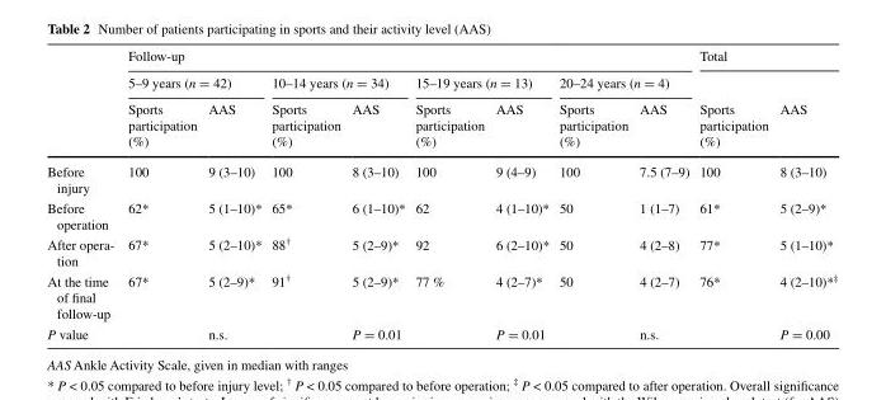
<table><thead><tr><td rowspan="3"></td><td colspan="8">Follow-up</td><td rowspan="2" colspan="2">Total</td></tr><tr><td colspan="2">5–9 years (n = 42)</td><td colspan="2">10–14 years (n = 34)</td><td colspan="2">15–19 years (n = 13)</td><td colspan="2">20–24 years (n = 4)</td></tr><tr><td>Sports participation (%)</td><td>AAS</td><td>Sports participation (%)</td><td>AAS</td><td>Sports participation (%)</td><td>AAS</td><td>Sports participation (%)</td><td>AAS</td><td>Sports participation (%)</td><td>AAS</td></tr></thead><tbody><tr><td>Before injury</td><td>100</td><td>9 (3–10)</td><td>100</td><td>8 (3–10)</td><td>100</td><td>9 (4–9)</td><td>100</td><td>7.5 (7–9)</td><td>100</td><td>8 (3–10)</td></tr><tr><td>Before operation</td><td>62*</td><td>5 (1–10)*</td><td>65*</td><td>6 (1–10)*</td><td>62</td><td>4 (1–10)*</td><td>50</td><td>1 (1–7)</td><td>61*</td><td>5 (2–9)*</td></tr><tr><td>After opera- tion</td><td>67*</td><td>5 (2–10)*</td><td>88<sup>†</sup></td><td>5 (2–9)*</td><td>92</td><td>6 (2–10)*</td><td>50</td><td>4 (2–8)</td><td>77*</td><td>5 (1–10)*</td></tr><tr><td>At the time of final follow-up</td><td>67*</td><td>5 (2–9)*</td><td>91<sup>†</sup></td><td>5 (2–9)*</td><td>77 %</td><td>4 (2–7)*</td><td>50</td><td>4 (2–7)</td><td>76*</td><td>4 (2–10)*<sup>‡</sup></td></tr><tr><td>P value</td><td></td><td>n.s.</td><td></td><td>P = 0.01</td><td></td><td>P = 0.01</td><td></td><td>n.s.</td><td></td><td>P = 0.00</td></tr></tbody></table>